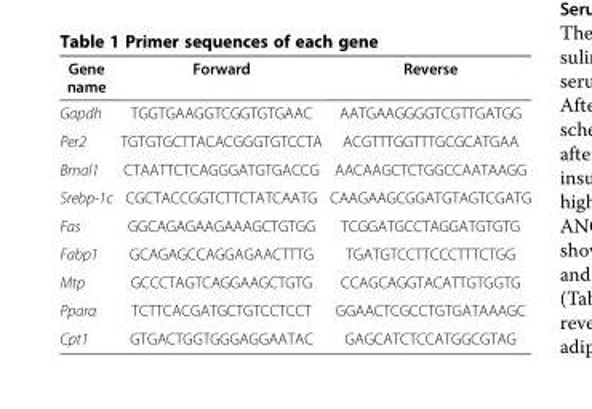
<table><thead><tr><td>Gene name</td><td>Forward</td><td>Reverse</td></tr></thead><tbody><tr><td>Gapdh</td><td>TGGTGAAGGTCGGTGTGAAC</td><td>AATGAAGGGGTCGTTGATGG</td></tr><tr><td>Per2</td><td>TGTGTGCTTACACGGGTGTCCTA</td><td>ACGTTTGGTTTGCGCATGAA</td></tr><tr><td>Bmal1</td><td>CTAATTCTCAGGGATGTGACCG</td><td>AACAAGCTCTGGCCAATAAGG</td></tr><tr><td>Srebp-1c</td><td>CGCTACCGGTCTTCTATCAATG</td><td>CAAGAAGCGGATGTAGTCGATG</td></tr><tr><td>Fas</td><td>GGCAGAGAAGAAAGCTGTGG</td><td>TCGGATGCCTAGGATGTGTG</td></tr><tr><td>Fabp1</td><td>GCAGAGCCAGGAGAACTTTG</td><td>TGATGTCCTTCCCTTTCTGG</td></tr><tr><td>Mtp</td><td>GCCCTAGTCAGGAAGCTGTG</td><td>CCAGCAGGTACATTGTGGTG</td></tr><tr><td>Pparα</td><td>TCTTCACGATGCTGTCCTCCT</td><td>GGAACTCGCCTGTGATAAAGC</td></tr><tr><td>Cpt1</td><td>GTGACTGGTGGGAGGAATAC</td><td>GAGCATCTCCATGGCGTAG</td></tr></tbody></table>